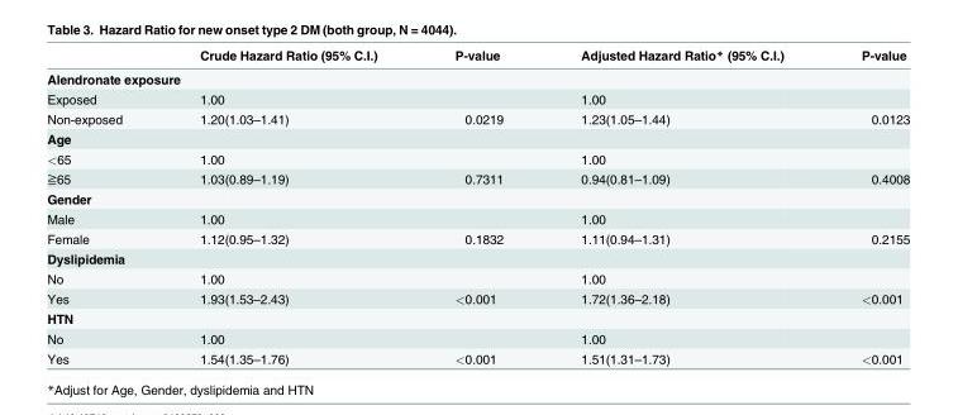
<table><thead><tr><td></td><td>Crude Hazard Ratio (95% C.I.)</td><td>P-value</td><td>Adjusted Hazard Ratio* (95% C.I.)</td><td>P-value</td></tr></thead><tbody><tr><td colspan="5">Alendronate exposure</td></tr><tr><td>Exposed</td><td>1.00</td><td></td><td>1.00</td><td></td></tr><tr><td>Non-exposed</td><td>1.20(1.03–1.41)</td><td>0.0219</td><td>1.23(1.05–1.44)</td><td>0.0123</td></tr><tr><td colspan="5">Age</td></tr><tr><td>&lt;65</td><td>1.00</td><td></td><td>1.00</td><td></td></tr><tr><td>≧65</td><td>1.03(0.89–1.19)</td><td>0.7311</td><td>0.94(0.81–1.09)</td><td>0.4008</td></tr><tr><td colspan="5">Gender</td></tr><tr><td>Male</td><td>1.00</td><td></td><td>1.00</td><td></td></tr><tr><td>Female</td><td>1.12(0.95–1.32)</td><td>0.1832</td><td>1.11(0.94–1.31)</td><td>0.2155</td></tr><tr><td colspan="5">Dyslipidemia</td></tr><tr><td>No</td><td>1.00</td><td></td><td>1.00</td><td></td></tr><tr><td>Yes</td><td>1.93(1.53–2.43)</td><td>&lt;0.001</td><td>1.72(1.36–2.18)</td><td>&lt;0.001</td></tr><tr><td colspan="5">HTN</td></tr><tr><td>No</td><td>1.00</td><td></td><td>1.00</td><td></td></tr><tr><td>Yes</td><td>1.54(1.35–1.76)</td><td>&lt;0.001</td><td>1.51(1.31–1.73)</td><td>&lt;0.001</td></tr></tbody></table>